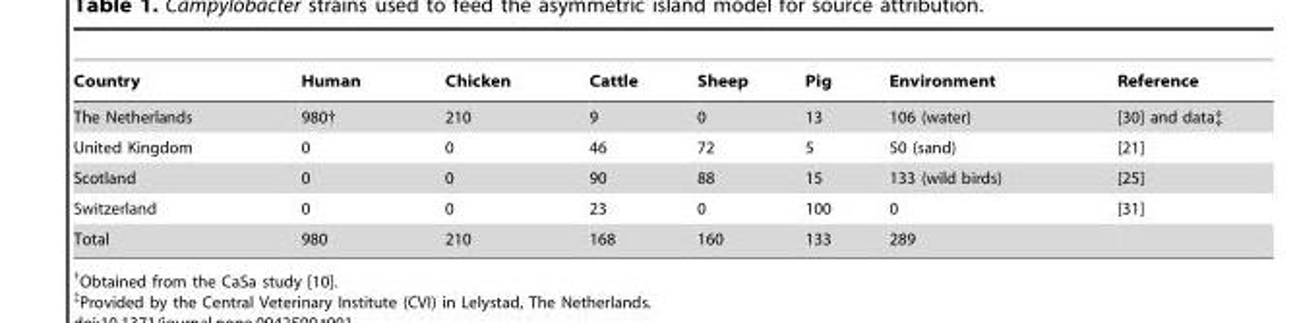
<table><thead><tr><td>Country</td><td>Human</td><td>Chicken</td><td>Cattle</td><td>Sheep</td><td>Pig</td><td>Environment</td><td>Reference</td></tr></thead><tbody><tr><td>The Netherlands</td><td>980†</td><td>210</td><td>9</td><td>0</td><td>13</td><td>106 (water)</td><td>[30] and data‡</td></tr><tr><td>United Kingdom</td><td>0</td><td>0</td><td>46</td><td>72</td><td>5</td><td>50 (sand)</td><td>[21]</td></tr><tr><td>Scotland</td><td>0</td><td>0</td><td>90</td><td>88</td><td>15</td><td>133 (wild birds)</td><td>[25]</td></tr><tr><td>Switzerland</td><td>0</td><td>0</td><td>23</td><td>0</td><td>100</td><td>0</td><td>[31]</td></tr><tr><td>Total</td><td>980</td><td>210</td><td>168</td><td>160</td><td>133</td><td>289</td><td></td></tr></tbody></table>